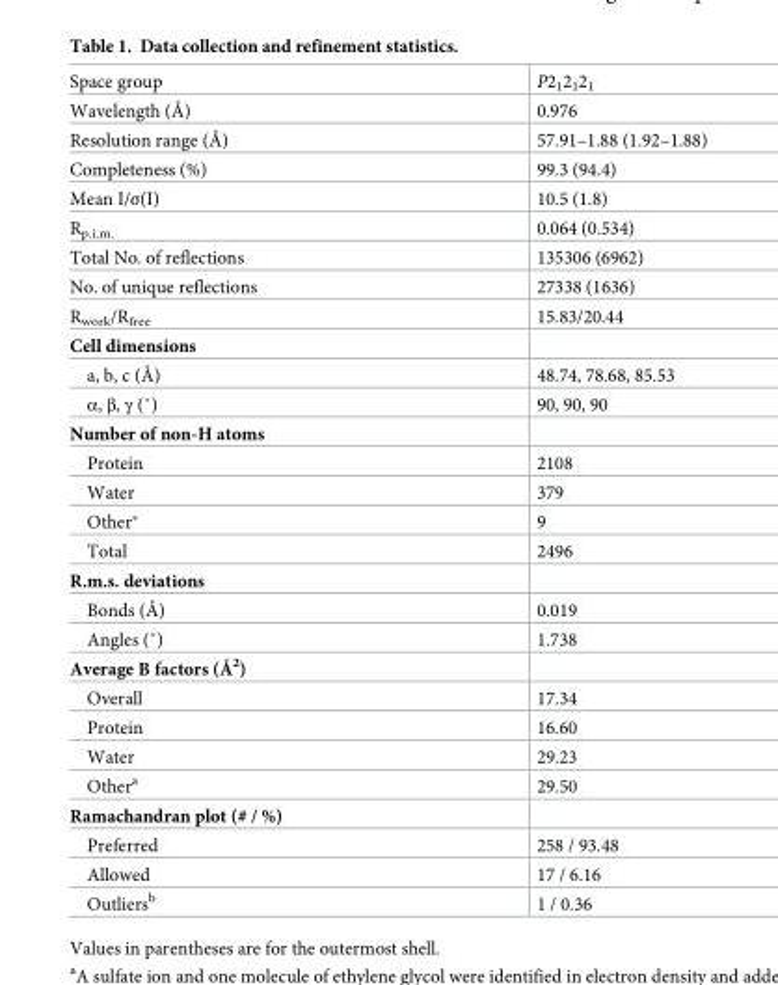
<table><tbody><tr><td>Space group</td><td>P2<sub>1</sub>2<sub>1</sub>2<sub>1</sub></td></tr><tr><td>Wavelength (Å)</td><td>0.976</td></tr><tr><td>Resolution range (Å)</td><td>57.91–1.88 (1.92–1.88)</td></tr><tr><td>Completeness (%)</td><td>99.3 (94.4)</td></tr><tr><td>Mean I/σ(I)</td><td>10.5 (1.8)</td></tr><tr><td>R<sub>p.i.m.</sub></td><td>0.064 (0.534)</td></tr><tr><td>Total No. of reflections</td><td>135306 (6962)</td></tr><tr><td>No. of unique reflections</td><td>27338 (1636)</td></tr><tr><td>R<sub>work</sub>/R<sub>free</sub></td><td>15.83/20.44</td></tr><tr><td colspan="2">Cell dimensions</td></tr><tr><td>a, b, c (Å)</td><td>48.74, 78.68, 85.53</td></tr><tr><td>α, β, γ (˚)</td><td>90, 90, 90</td></tr><tr><td colspan="2">Number of non-H atoms</td></tr><tr><td>Protein</td><td>2108</td></tr><tr><td>Water</td><td>379</td></tr><tr><td>Other*</td><td>9</td></tr><tr><td>Total</td><td>2496</td></tr><tr><td colspan="2">R.m.s. deviations</td></tr><tr><td>Bonds (Å)</td><td>0.019</td></tr><tr><td>Angles (˚)</td><td>1.738</td></tr><tr><td colspan="2">Average B factors (Å<sup>2</sup>)</td></tr><tr><td>Overall</td><td>17.34</td></tr><tr><td>Protein</td><td>16.60</td></tr><tr><td>Water</td><td>29.23</td></tr><tr><td>Other<sup>a</sup></td><td>29.50</td></tr><tr><td colspan="2">Ramachandran plot (# / %)</td></tr><tr><td>Preferred</td><td>258 / 93.48</td></tr><tr><td>Allowed</td><td>17 / 6.16</td></tr><tr><td>Outliers<sup>b</sup></td><td>1 / 0.36</td></tr></tbody></table>